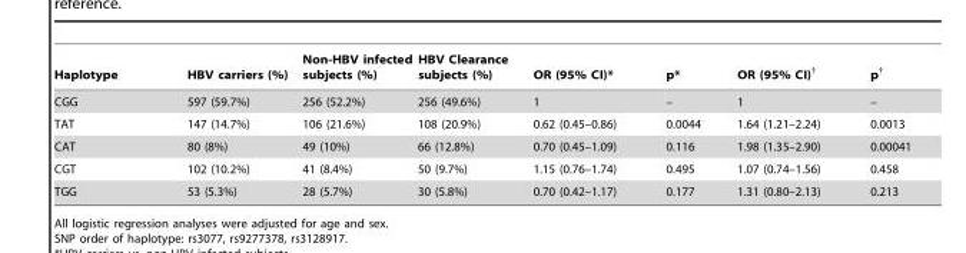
<table><thead><tr><td>Haplotype</td><td>HBV carriers (%)</td><td>Non-HBV infected subjects (%)</td><td>HBV Clearance subjects (%)</td><td>OR (95% CI)*</td><td>p*</td><td>OR (95% CI)†</td><td>p†</td></tr></thead><tbody><tr><td>CGG</td><td>597 (59.7%)</td><td>256 (52.2%)</td><td>256 (49.6%)</td><td>1</td><td>–</td><td>1</td><td>–</td></tr><tr><td>TAT</td><td>147 (14.7%)</td><td>106 (21.6%)</td><td>108 (20.9%)</td><td>0.62 (0.45–0.86)</td><td>0.0044</td><td>1.64 (1.21–2.24)</td><td>0.0013</td></tr><tr><td>CAT</td><td>80 (8%)</td><td>49 (10%)</td><td>66 (12.8%)</td><td>0.70 (0.45–1.09)</td><td>0.116</td><td>1.98 (1.35–2.90)</td><td>0.00041</td></tr><tr><td>CGT</td><td>102 (10.2%)</td><td>41 (8.4%)</td><td>50 (9.7%)</td><td>1.15 (0.76–1.74)</td><td>0.495</td><td>1.07 (0.74–1.56)</td><td>0.458</td></tr><tr><td>TGG</td><td>53 (5.3%)</td><td>28 (5.7%)</td><td>30 (5.8%)</td><td>0.70 (0.42–1.17)</td><td>0.177</td><td>1.31 (0.80–2.13)</td><td>0.213</td></tr></tbody></table>